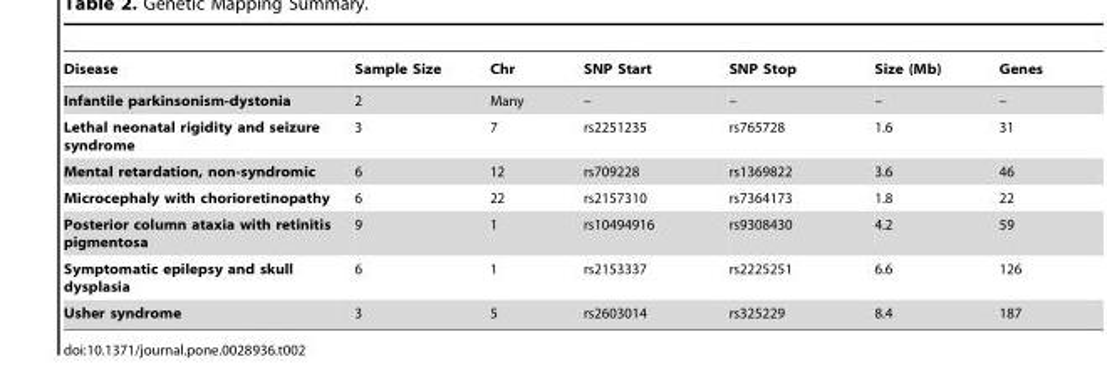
<table><thead><tr><td>Disease</td><td>Sample Size</td><td>Chr</td><td>SNP Start</td><td>SNP Stop</td><td>Size (Mb)</td><td>Genes</td></tr></thead><tbody><tr><td>Infantile parkinsonism-dystonia</td><td>2</td><td>Many</td><td>–</td><td>–</td><td>–</td><td>–</td></tr><tr><td>Lethal neonatal rigidity and seizure syndrome</td><td>3</td><td>7</td><td>rs2251235</td><td>rs765728</td><td>1.6</td><td>31</td></tr><tr><td>Mental retardation, non-syndromic</td><td>6</td><td>12</td><td>rs709228</td><td>rs1369822</td><td>3.6</td><td>46</td></tr><tr><td>Microcephaly with chorioretinopathy</td><td>6</td><td>22</td><td>rs2157310</td><td>rs7364173</td><td>1.8</td><td>22</td></tr><tr><td>Posterior column ataxia with retinitis pigmentosa</td><td>9</td><td>1</td><td>rs10494916</td><td>rs9308430</td><td>4.2</td><td>59</td></tr><tr><td>Symptomatic epilepsy and skull dysplasia</td><td>6</td><td>1</td><td>rs2153337</td><td>rs2225251</td><td>6.6</td><td>126</td></tr><tr><td>Usher syndrome</td><td>3</td><td>5</td><td>rs2603014</td><td>rs325229</td><td>8.4</td><td>187</td></tr></tbody></table>